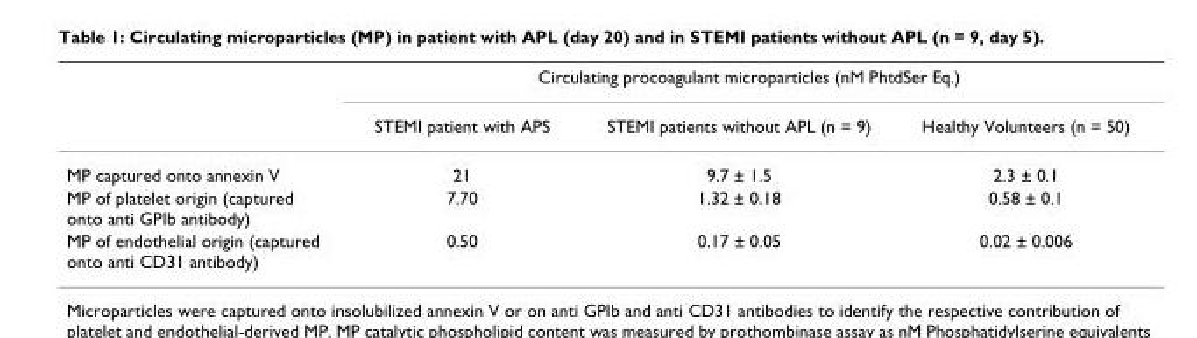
<table><thead><tr><td rowspan="2"></td><td colspan="3">Circulating procoagulant microparticles (nM PhtdSer Eq.)</td></tr><tr><td>STEMI patient with APS</td><td>STEMI patients without APL (n = 9)</td><td>Healthy Volunteers (n = 50)</td></tr></thead><tbody><tr><td>MP captured onto annexin V</td><td>21</td><td>9.7 ± 1.5</td><td>2.3 ± 0.1</td></tr><tr><td>MP of platelet origin (captured onto anti GPIb antibody)</td><td>7.70</td><td>1.32 ± 0.18</td><td>0.58 ± 0.1</td></tr><tr><td>MP of endothelial origin (captured onto anti CD31 antibody)</td><td>0.50</td><td>0.17 ± 0.05</td><td>0.02 ± 0.006</td></tr></tbody></table>